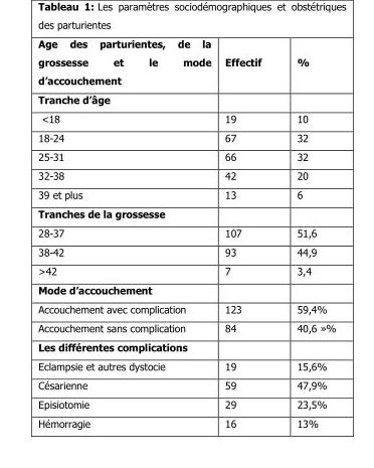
<table><thead><tr><td>Age des parturientes, de la grossesse et le mode d’accouchement</td><td>Effectif</td><td>%</td></tr></thead><tbody><tr><td colspan="3">Tranche d’âge</td></tr><tr><td>&lt;18</td><td>19</td><td>10</td></tr><tr><td>18-24</td><td>67</td><td>32</td></tr><tr><td>25-31</td><td>66</td><td>32</td></tr><tr><td>32-38</td><td>42</td><td>20</td></tr><tr><td>39 et plus</td><td>13</td><td>6</td></tr><tr><td colspan="3">Tranches de la grossesse</td></tr><tr><td>28-37</td><td>107</td><td>51,6</td></tr><tr><td>38-42</td><td>93</td><td>44,9</td></tr><tr><td>&gt;42</td><td>7</td><td>3,4</td></tr><tr><td colspan="3">Mode d’accouchement</td></tr><tr><td>Accouchement avec complication</td><td>123</td><td>59,4%</td></tr><tr><td>Accouchement sans complication</td><td>84</td><td>40,6 »%</td></tr><tr><td colspan="3">Les différentes complications</td></tr><tr><td>Eclampsie et autres dystocie</td><td>19</td><td>15,6%</td></tr><tr><td>Césarienne</td><td>59</td><td>47,9%</td></tr><tr><td>Episiotomie</td><td>29</td><td>23,5%</td></tr><tr><td>Hémorragie</td><td>16</td><td>13%</td></tr></tbody></table>